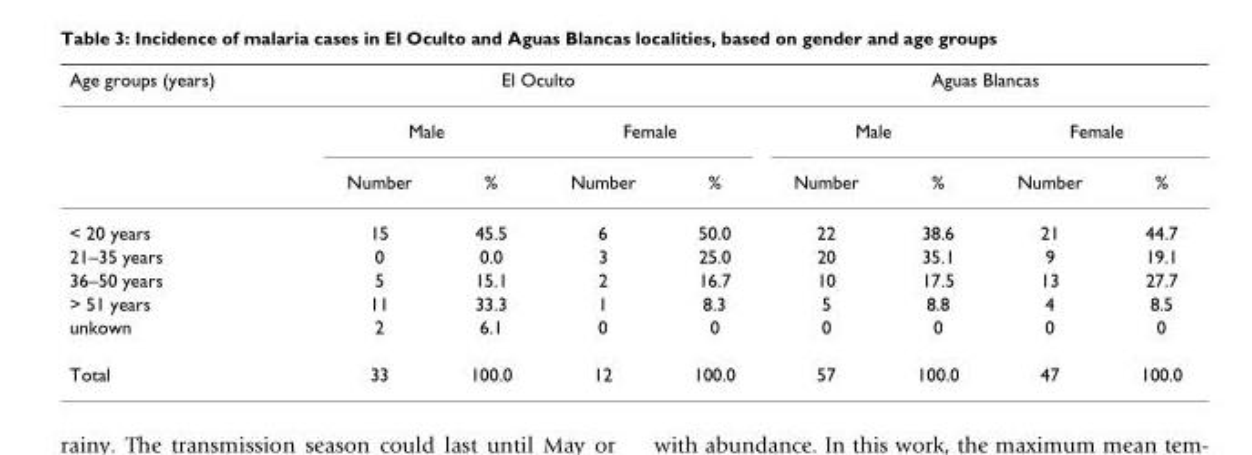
<table><thead><tr><td rowspan="3">Age groups (years)</td><td colspan="4">El Oculto</td><td colspan="4">Aguas Blancas</td></tr><tr><td colspan="2">Male</td><td colspan="2">Female</td><td colspan="2">Male</td><td colspan="2">Female</td></tr><tr><td>Number</td><td>%</td><td>Number</td><td>%</td><td>Number</td><td>%</td><td>Number</td><td>%</td></tr></thead><tbody><tr><td>&lt; 20 years</td><td>15</td><td>45.5</td><td>6</td><td>50.0</td><td>22</td><td>38.6</td><td>21</td><td>44.7</td></tr><tr><td>21–35 years</td><td>0</td><td>0.0</td><td>3</td><td>25.0</td><td>20</td><td>35.1</td><td>9</td><td>19.1</td></tr><tr><td>36–50 years</td><td>5</td><td>15.1</td><td>2</td><td>16.7</td><td>10</td><td>17.5</td><td>13</td><td>27.7</td></tr><tr><td>&gt; 51 years</td><td>11</td><td>33.3</td><td>1</td><td>8.3</td><td>5</td><td>8.8</td><td>4</td><td>8.5</td></tr><tr><td>unkown</td><td>2</td><td>6.1</td><td>0</td><td>0</td><td>0</td><td>0</td><td>0</td><td>0</td></tr><tr><td>Total</td><td>33</td><td>100.0</td><td>12</td><td>100.0</td><td>57</td><td>100.0</td><td>47</td><td>100.0</td></tr></tbody></table>